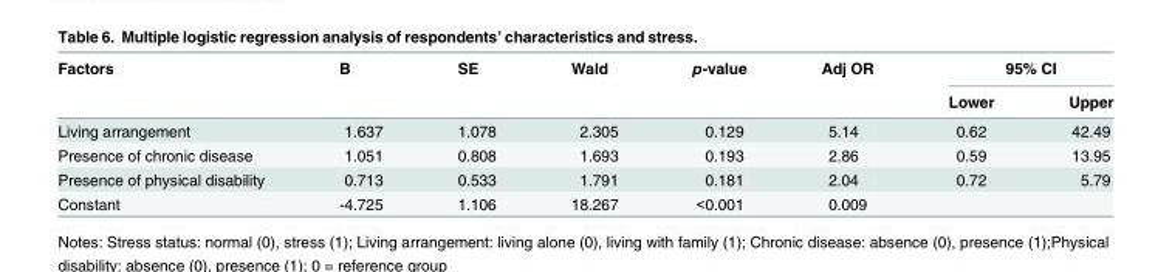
<table><thead><tr><td rowspan="2">Factors</td><td rowspan="2">B</td><td rowspan="2">SE</td><td rowspan="2">Wald</td><td rowspan="2">p-value</td><td rowspan="2">Adj OR</td><td colspan="2">95% CI</td></tr><tr><td>Lower</td><td>Upper</td></tr></thead><tbody><tr><td>Living arrangement</td><td>1.637</td><td>1.078</td><td>2.305</td><td>0.129</td><td>5.14</td><td>0.62</td><td>42.49</td></tr><tr><td>Presence of chronic disease</td><td>1.051</td><td>0.808</td><td>1.693</td><td>0.193</td><td>2.86</td><td>0.59</td><td>13.95</td></tr><tr><td>Presence of physical disability</td><td>0.713</td><td>0.533</td><td>1.791</td><td>0.181</td><td>2.04</td><td>0.72</td><td>5.79</td></tr><tr><td>Constant</td><td>-4.725</td><td>1.106</td><td>18.267</td><td>&lt;0.001</td><td>0.009</td><td></td><td></td></tr></tbody></table>